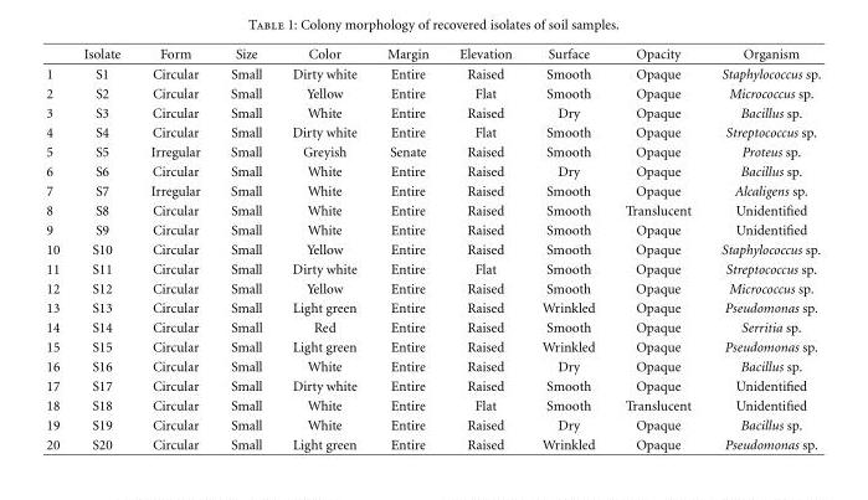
<table><thead><tr><td></td><td>Isolate</td><td>Form</td><td>Size</td><td>Color</td><td>Margin</td><td>Elevation</td><td>Surface</td><td>Opacity</td><td>Organism</td></tr></thead><tbody><tr><td>1</td><td>S1</td><td>Circular</td><td>Small</td><td>Dirty white</td><td>Entire</td><td>Raised</td><td>Smooth</td><td>Opaque</td><td>Staphylococcus sp.</td></tr><tr><td>2</td><td>S2</td><td>Circular</td><td>Small</td><td>Yellow</td><td>Entire</td><td>Flat</td><td>Smooth</td><td>Opaque</td><td>Micrococcus sp.</td></tr><tr><td>3</td><td>S3</td><td>Circular</td><td>Small</td><td>White</td><td>Entire</td><td>Raised</td><td>Dry</td><td>Opaque</td><td>Bacillus sp.</td></tr><tr><td>4</td><td>S4</td><td>Circular</td><td>Small</td><td>Dirty white</td><td>Entire</td><td>Flat</td><td>Smooth</td><td>Opaque</td><td>Streptococcus sp.</td></tr><tr><td>5</td><td>S5</td><td>Irregular</td><td>Small</td><td>Greyish</td><td>Senate</td><td>Raised</td><td>Smooth</td><td>Opaque</td><td>Proteus sp.</td></tr><tr><td>6</td><td>S6</td><td>Circular</td><td>Small</td><td>White</td><td>Entire</td><td>Raised</td><td>Dry</td><td>Opaque</td><td>Bacillus sp.</td></tr><tr><td>7</td><td>S7</td><td>Irregular</td><td>Small</td><td>White</td><td>Entire</td><td>Raised</td><td>Smooth</td><td>Opaque</td><td>Alcaligens sp.</td></tr><tr><td>8</td><td>S8</td><td>Circular</td><td>Small</td><td>White</td><td>Entire</td><td>Raised</td><td>Smooth</td><td>Translucent</td><td>Unidentified</td></tr><tr><td>9</td><td>S9</td><td>Circular</td><td>Small</td><td>White</td><td>Entire</td><td>Raised</td><td>Smooth</td><td>Opaque</td><td>Unidentified</td></tr><tr><td>10</td><td>S10</td><td>Circular</td><td>Small</td><td>Yellow</td><td>Entire</td><td>Raised</td><td>Smooth</td><td>Opaque</td><td>Staphylococcus sp.</td></tr><tr><td>11</td><td>S11</td><td>Circular</td><td>Small</td><td>Dirty white</td><td>Entire</td><td>Flat</td><td>Smooth</td><td>Opaque</td><td>Streptococcus sp.</td></tr><tr><td>12</td><td>S12</td><td>Circular</td><td>Small</td><td>Yellow</td><td>Entire</td><td>Raised</td><td>Smooth</td><td>Opaque</td><td>Micrococcus sp.</td></tr><tr><td>13</td><td>S13</td><td>Circular</td><td>Small</td><td>Light green</td><td>Entire</td><td>Raised</td><td>Wrinkled</td><td>Opaque</td><td>Pseudomonas sp.</td></tr><tr><td>14</td><td>S14</td><td>Circular</td><td>Small</td><td>Red</td><td>Entire</td><td>Raised</td><td>Smooth</td><td>Opaque</td><td>Serritia sp.</td></tr><tr><td>15</td><td>S15</td><td>Circular</td><td>Small</td><td>Light green</td><td>Entire</td><td>Raised</td><td>Wrinkled</td><td>Opaque</td><td>Pseudomonas sp.</td></tr><tr><td>16</td><td>S16</td><td>Circular</td><td>Small</td><td>White</td><td>Entire</td><td>Raised</td><td>Dry</td><td>Opaque</td><td>Bacillus sp.</td></tr><tr><td>17</td><td>S17</td><td>Circular</td><td>Small</td><td>Dirty white</td><td>Entire</td><td>Raised</td><td>Smooth</td><td>Opaque</td><td>Unidentified</td></tr><tr><td>18</td><td>S18</td><td>Circular</td><td>Small</td><td>White</td><td>Entire</td><td>Flat</td><td>Smooth</td><td>Translucent</td><td>Unidentified</td></tr><tr><td>19</td><td>S19</td><td>Circular</td><td>Small</td><td>White</td><td>Entire</td><td>Raised</td><td>Dry</td><td>Opaque</td><td>Bacillus sp.</td></tr><tr><td>20</td><td>S20</td><td>Circular</td><td>Small</td><td>Light green</td><td>Entire</td><td>Raised</td><td>Wrinkled</td><td>Opaque</td><td>Pseudomonas sp.</td></tr></tbody></table>